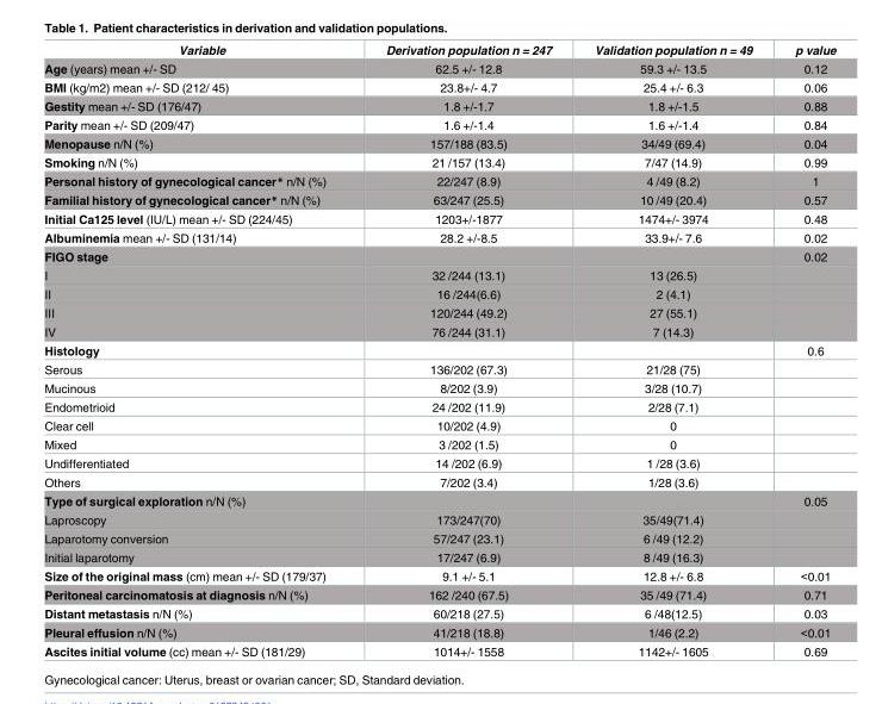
<table><thead><tr><td>Variable</td><td>Derivation population n = 247</td><td>Validation population n = 49</td><td>p value</td></tr></thead><tbody><tr><td>Age (years) mean +/- SD</td><td>62.5 +/- 12.8</td><td>59.3 +/- 13.5</td><td>0.12</td></tr><tr><td>BMI (kg/m2) mean +/- SD (212/ 45)</td><td>23.8+/- 4.7</td><td>25.4 +/- 6.3</td><td>0.06</td></tr><tr><td>Gestity mean +/- SD (176/47)</td><td>1.8 +/-1.7</td><td>1.8 +/-1.5</td><td>0.88</td></tr><tr><td>Parity mean +/- SD (209/47)</td><td>1.6 +/-1.4</td><td>1.6 +/-1.4</td><td>0.84</td></tr><tr><td>Menopause n/N (%)</td><td>157/188 (83.5)</td><td>34/49 (69.4)</td><td>0.04</td></tr><tr><td>Smoking n/N (%)</td><td>21 /157 (13.4)</td><td>7/47 (14.9)</td><td>0.99</td></tr><tr><td>Personal history of gynecological cancer* n/N (%)</td><td>22/247 (8.9)</td><td>4 /49 (8.2)</td><td>1</td></tr><tr><td>Familial history of gynecological cancer* n/N (%)</td><td>63/247 (25.5)</td><td>10 /49 (20.4)</td><td>0.57</td></tr><tr><td>Initial Ca125 level (IU/L) mean +/- SD (224/45)</td><td>1203+/-1877</td><td>1474+/- 3974</td><td>0.48</td></tr><tr><td>Albuminemia mean +/- SD (131/14)</td><td>28.2 +/-8.5</td><td>33.9+/- 7.6</td><td>0.02</td></tr><tr><td>FIGO stage</td><td></td><td></td><td>0.02</td></tr><tr><td>I</td><td>32 /244 (13.1)</td><td>13 (26.5)</td><td></td></tr><tr><td>II</td><td>16 /244(6.6)</td><td>2 (4.1)</td><td></td></tr><tr><td>III</td><td>120/244 (49.2)</td><td>27 (55.1)</td><td></td></tr><tr><td>IV</td><td>76 /244 (31.1)</td><td>7 (14.3)</td><td></td></tr><tr><td>Histology</td><td></td><td></td><td>0.6</td></tr><tr><td>Serous</td><td>136/202 (67.3)</td><td>21/28 (75)</td><td></td></tr><tr><td>Mucinous</td><td>8/202 (3.9)</td><td>3/28 (10.7)</td><td></td></tr><tr><td>Endometrioid</td><td>24 /202 (11.9)</td><td>2/28 (7.1)</td><td></td></tr><tr><td>Clear cell</td><td>10/202 (4.9)</td><td>0</td><td></td></tr><tr><td>Mixed</td><td>3 /202 (1.5)</td><td>0</td><td></td></tr><tr><td>Undifferentiated</td><td>14 /202 (6.9)</td><td>1 /28 (3.6)</td><td></td></tr><tr><td>Others</td><td>7/202 (3.4)</td><td>1/28 (3.6)</td><td></td></tr><tr><td>Type of surgical exploration n/N (%)</td><td></td><td></td><td>0.05</td></tr><tr><td>Laproscopy</td><td>173/247(70)</td><td>35/49(71.4)</td><td></td></tr><tr><td>Laparotomy conversion</td><td>57/247 (23.1)</td><td>6 /49 (12.2)</td><td></td></tr><tr><td>Initial laparotomy</td><td>17/247 (6.9)</td><td>8 /49 (16.3)</td><td></td></tr><tr><td>Size of the original mass (cm) mean +/- SD (179/37)</td><td>9.1 +/- 5.1</td><td>12.8 +/- 6.8</td><td>&lt;0.01</td></tr><tr><td>Peritoneal carcinomatosis at diagnosis n/N (%)</td><td>162 /240 (67.5)</td><td>35 /49 (71.4)</td><td>0.71</td></tr><tr><td>Distant metastasis n/N (%)</td><td>60/218 (27.5)</td><td>6 /48(12.5)</td><td>0.03</td></tr><tr><td>Pleural effusion n/N (%)</td><td>41/218 (18.8)</td><td>1/46 (2.2)</td><td>&lt;0.01</td></tr><tr><td>Ascites initial volume (cc) mean +/- SD (181/29)</td><td>1014+/- 1558</td><td>1142+/- 1605</td><td>0.69</td></tr></tbody></table>